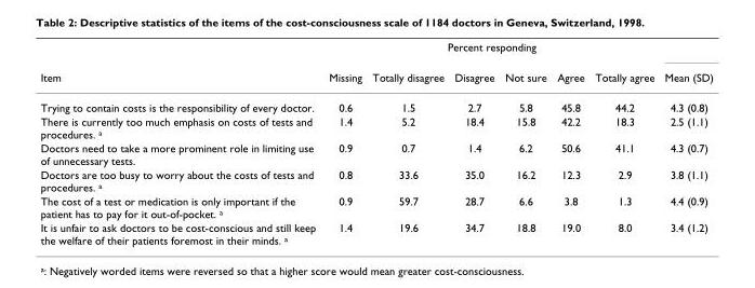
<table><thead><tr><td rowspan="2">Item</td><td colspan="6">Percent responding</td><td rowspan="2">Mean (SD)</td></tr><tr><td>Missing</td><td>Totally disagree</td><td>Disagree</td><td>Not sure</td><td>Agree</td><td>Totally agree</td></tr></thead><tbody><tr><td>Trying to contain costs is the responsibility of every doctor.</td><td>0.6</td><td>1.5</td><td>2.7</td><td>5.8</td><td>45.8</td><td>44.2</td><td>4.3 (0.8)</td></tr><tr><td>There is currently too much emphasis on costs of tests and procedures. <sup>a</sup></td><td>1.4</td><td>5.2</td><td>18.4</td><td>15.8</td><td>42.2</td><td>18.3</td><td>2.5 (1.1)</td></tr><tr><td>Doctors need to take a more prominent role in limiting use of unnecessary tests.</td><td>0.9</td><td>0.7</td><td>1.4</td><td>6.2</td><td>50.6</td><td>41.1</td><td>4.3 (0.7)</td></tr><tr><td>Doctors are too busy to worry about the costs of tests and procedures. <sup>a</sup></td><td>0.8</td><td>33.6</td><td>35.0</td><td>16.2</td><td>12.3</td><td>2.9</td><td>3.8 (1.1)</td></tr><tr><td>The cost of a test or medication is only important if the patient has to pay for it out-of-pocket. <sup>a</sup></td><td>0.9</td><td>59.7</td><td>28.7</td><td>6.6</td><td>3.8</td><td>1.3</td><td>4.4 (0.9)</td></tr><tr><td>It is unfair to ask doctors to be cost-conscious and still keep the welfare of their patients foremost in their minds. <sup>a</sup></td><td>1.4</td><td>19.6</td><td>34.7</td><td>18.8</td><td>19.0</td><td>8.0</td><td>3.4 (1.2)</td></tr></tbody></table>